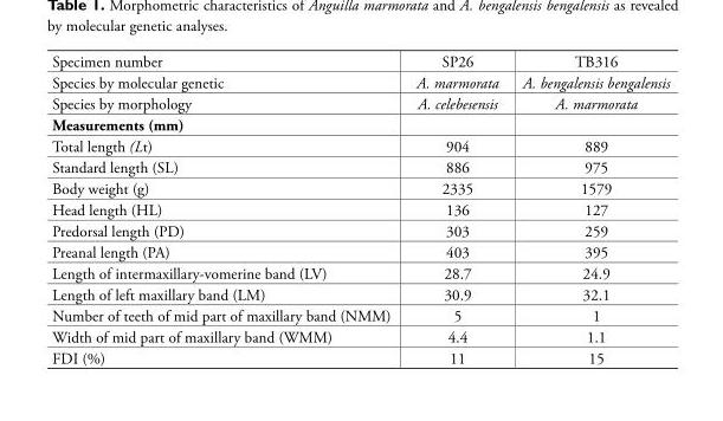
<table><tbody><tr><td>Specimen number</td><td>SP26</td><td>TB316</td></tr><tr><td>Species by molecular genetic</td><td>A. marmorata</td><td>A. bengalensis bengalensis</td></tr><tr><td>Species by morphology</td><td>A. celebesensis</td><td>A. marmorata</td></tr><tr><td colspan="3">Measurements (mm)</td></tr><tr><td>Total length (Lt)</td><td>904</td><td>889</td></tr><tr><td>Standard length (SL)</td><td>886</td><td>975</td></tr><tr><td>Body weight (g)</td><td>2335</td><td>1579</td></tr><tr><td>Head length (HL)</td><td>136</td><td>127</td></tr><tr><td>Predorsal length (PD)</td><td>303</td><td>259</td></tr><tr><td>Preanal length (PA)</td><td>403</td><td>395</td></tr><tr><td>Length of intermaxillary-vomerine band (LV)</td><td>28.7</td><td>24.9</td></tr><tr><td>Length of left maxillary band (LM)</td><td>30.9</td><td>32.1</td></tr><tr><td>Number of teeth of mid part of maxillary band (NMM)</td><td>5</td><td>1</td></tr><tr><td>Width of mid part of maxillary band (WMM)</td><td>4.4</td><td>1.1</td></tr><tr><td>FDI (%)</td><td>11</td><td>15</td></tr></tbody></table>